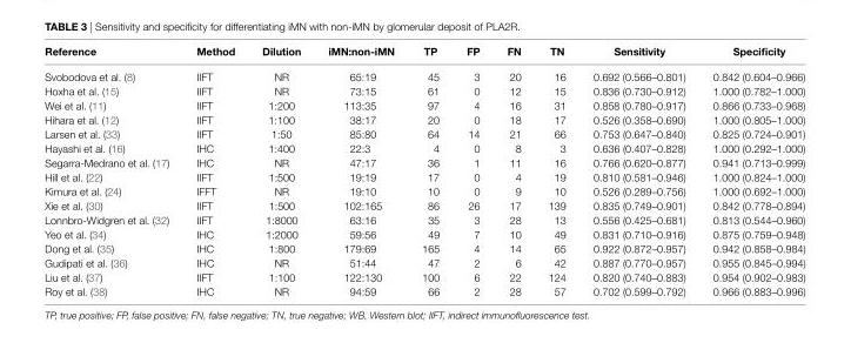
<table><thead><tr><td>Reference</td><td>method</td><td>Dilution</td><td>imN:non-imN</td><td>tP</td><td>FP</td><td>FN</td><td>tN</td><td>Sensitivity</td><td>Specificity</td></tr></thead><tbody><tr><td>Svobodova et al. (8)</td><td>IIFT</td><td>NR</td><td>65:19</td><td>45</td><td>3</td><td>20</td><td>16</td><td>0.692 (0.566–0.801)</td><td>0.842 (0.604–0.966)</td></tr><tr><td>Hoxha et al. (15)</td><td>IIFT</td><td>NR</td><td>73:15</td><td>61</td><td>0</td><td>12</td><td>15</td><td>0.836 (0.730–0.912)</td><td>1.000 (0.782–1.000)</td></tr><tr><td>Wei et al. (11)</td><td>IIFT</td><td>1:200</td><td>113:35</td><td>97</td><td>4</td><td>16</td><td>31</td><td>0.858 (0.780–0.917)</td><td>0.866 (0.733–0.968)</td></tr><tr><td>Hihara et al. (12)</td><td>IIFT</td><td>1:100</td><td>38:17</td><td>20</td><td>0</td><td>18</td><td>17</td><td>0.526 (0.358–0.690)</td><td>1.000 (0.805–1.000)</td></tr><tr><td>Larsen et al. (33)</td><td>IIFT</td><td>1:50</td><td>85:80</td><td>64</td><td>14</td><td>21</td><td>66</td><td>0.753 (0.647–0.840)</td><td>0.825 (0.724–0.901)</td></tr><tr><td>Hayashi et al. (16)</td><td>IHC</td><td>1:400</td><td>22:3</td><td>4</td><td>0</td><td>8</td><td>3</td><td>0.636 (0.407–0.828)</td><td>1.000 (0.292–1.000)</td></tr><tr><td>Segarra-Medrano et al. (17)</td><td>IHC</td><td>NR</td><td>47:17</td><td>36</td><td>1</td><td>11</td><td>16</td><td>0.766 (0.620–0.877)</td><td>0.941 (0.713–0.999)</td></tr><tr><td>Hill et al. (22)</td><td>IIFT</td><td>1:500</td><td>19:19</td><td>17</td><td>0</td><td>4</td><td>19</td><td>0.810 (0.581–0.946)</td><td>1.000 (0.824–1.000)</td></tr><tr><td>Kimura et al. (24)</td><td>IFFT</td><td>NR</td><td>19:10</td><td>10</td><td>0</td><td>9</td><td>10</td><td>0.526 (0.289–0.756)</td><td>1.000 (0.692–1.000)</td></tr><tr><td>Xie et al. (30)</td><td>IIFT</td><td>1:500</td><td>102:165</td><td>86</td><td>26</td><td>17</td><td>139</td><td>0.835 (0.749–0.901)</td><td>0.842 (0.778–0.894)</td></tr><tr><td>Lonnbro-Widgren et al. (32)</td><td>IIFT</td><td>1:8000</td><td>63:16</td><td>35</td><td>3</td><td>28</td><td>13</td><td>0.556 (0.425–0.681)</td><td>0.813 (0.544–0.960)</td></tr><tr><td>Yeo et al. (34)</td><td>IHC</td><td>1:2000</td><td>59:56</td><td>49</td><td>7</td><td>10</td><td>49</td><td>0.831 (0.710–0.916)</td><td>0.875 (0.759–0.948)</td></tr><tr><td>Dong et al. (35)</td><td>IHC</td><td>1:800</td><td>179:69</td><td>165</td><td>4</td><td>14</td><td>65</td><td>0.922 (0.872–0.957)</td><td>0.942 (0.858–0.984)</td></tr><tr><td>Gudipati et al. (36)</td><td>IHC</td><td>NR</td><td>51:44</td><td>47</td><td>2</td><td>6</td><td>42</td><td>0.887 (0.770–0.957)</td><td>0.955 (0.845–0.994)</td></tr><tr><td>Liu et al. (37)</td><td>IIFT</td><td>1:100</td><td>122:130</td><td>100</td><td>6</td><td>22</td><td>124</td><td>0.820 (0.740–0.883)</td><td>0.954 (0.902–0.983)</td></tr><tr><td>Roy et al. (38)</td><td>IHC</td><td>NR</td><td>94:59</td><td>66</td><td>2</td><td>28</td><td>57</td><td>0.702 (0.599–0.792)</td><td>0.966 (0.883–0.996)</td></tr></tbody></table>